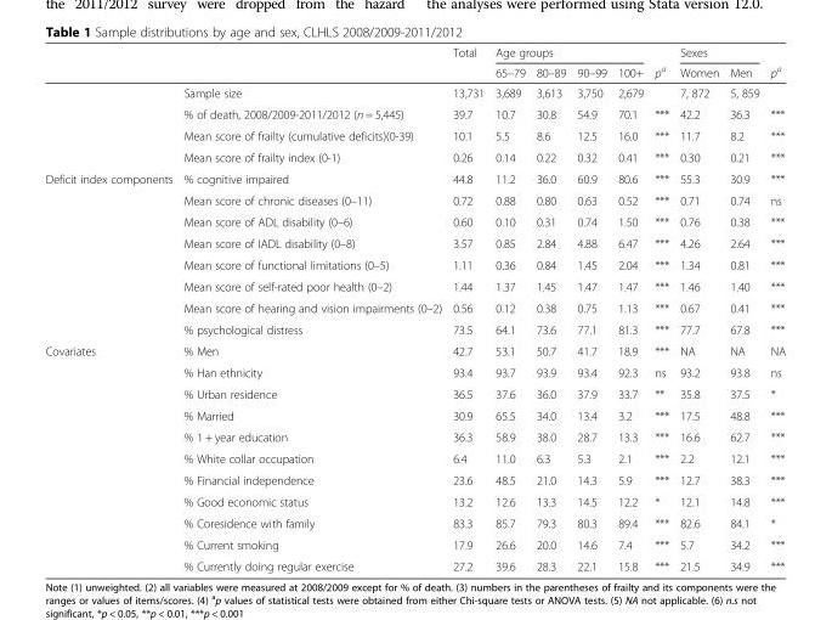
<table><thead><tr><td rowspan="2"></td><td rowspan="2"></td><td rowspan="2">Total</td><td colspan="4">Age groups</td><td rowspan="2">p<sup>a</sup></td><td colspan="2">Sexes</td><td rowspan="2">p<sup>a</sup></td></tr><tr><td>65–79</td><td>80–89</td><td>90–99</td><td>100+</td><td>Women</td><td>Men</td></tr></thead><tbody><tr><td></td><td>Sample size</td><td>13,731</td><td>3,689</td><td>3,613</td><td>3,750</td><td>2,679</td><td></td><td>7, 872</td><td>5, 859</td><td></td></tr><tr><td></td><td>% of death, 2008/2009-2011/2012 (n = 5,445)</td><td>39.7</td><td>10.7</td><td>30.8</td><td>54.9</td><td>70.1</td><td>***</td><td>42.2</td><td>36.3</td><td>***</td></tr><tr><td></td><td>Mean score of frailty (cumulative deficits)(0-39)</td><td>10.1</td><td>5.5</td><td>8.6</td><td>12.5</td><td>16.0</td><td>***</td><td>11.7</td><td>8.2</td><td>***</td></tr><tr><td></td><td>Mean score of frailty index (0-1)</td><td>0.26</td><td>0.14</td><td>0.22</td><td>0.32</td><td>0.41</td><td>***</td><td>0.30</td><td>0.21</td><td>***</td></tr><tr><td rowspan="8">Deficit index components</td><td>% cognitive impaired</td><td>44.8</td><td>11.2</td><td>36.0</td><td>60.9</td><td>80.6</td><td>***</td><td>55.3</td><td>30.9</td><td>***</td></tr><tr><td>Mean score of chronic diseases (0–11)</td><td>0.72</td><td>0.88</td><td>0.80</td><td>0.63</td><td>0.52</td><td>***</td><td>0.71</td><td>0.74</td><td>ns</td></tr><tr><td>Mean score of ADL disability (0–6)</td><td>0.60</td><td>0.10</td><td>0.31</td><td>0.74</td><td>1.50</td><td>***</td><td>0.76</td><td>0.38</td><td>***</td></tr><tr><td>Mean score of IADL disability (0–8)</td><td>3.57</td><td>0.85</td><td>2.84</td><td>4.88</td><td>6.47</td><td>***</td><td>4.26</td><td>2.64</td><td>***</td></tr><tr><td>Mean score of functional limitations (0–5)</td><td>1.11</td><td>0.36</td><td>0.84</td><td>1.45</td><td>2.04</td><td>***</td><td>1.34</td><td>0.81</td><td>***</td></tr><tr><td>Mean score of self-rated poor health (0–2)</td><td>1.44</td><td>1.37</td><td>1.45</td><td>1.47</td><td>1.47</td><td>***</td><td>1.46</td><td>1.40</td><td>***</td></tr><tr><td>Mean score of hearing and vision impairments (0–2)</td><td>0.56</td><td>0.12</td><td>0.38</td><td>0.75</td><td>1.13</td><td>***</td><td>0.67</td><td>0.41</td><td>***</td></tr><tr><td>% psychological distress</td><td>73.5</td><td>64.1</td><td>73.6</td><td>77.1</td><td>81.3</td><td>***</td><td>77.7</td><td>67.8</td><td>***</td></tr><tr><td rowspan="11">Covariates</td><td>% Men</td><td>42.7</td><td>53.1</td><td>50.7</td><td>41.7</td><td>18.9</td><td>***</td><td>NA</td><td>NA</td><td>NA</td></tr><tr><td>% Han ethnicity</td><td>93.4</td><td>93.7</td><td>93.9</td><td>93.4</td><td>92.3</td><td>ns</td><td>93.2</td><td>93.8</td><td>ns</td></tr><tr><td>% Urban residence</td><td>36.5</td><td>37.6</td><td>36.0</td><td>37.9</td><td>33.7</td><td>**</td><td>35.8</td><td>37.5</td><td>*</td></tr><tr><td>% Married</td><td>30.9</td><td>65.5</td><td>34.0</td><td>13.4</td><td>3.2</td><td>***</td><td>17.5</td><td>48.8</td><td>***</td></tr><tr><td>% 1 + year education</td><td>36.3</td><td>58.9</td><td>38.0</td><td>28.7</td><td>13.3</td><td>***</td><td>16.6</td><td>62.7</td><td>***</td></tr><tr><td>% White collar occupation</td><td>6.4</td><td>11.0</td><td>6.3</td><td>5.3</td><td>2.1</td><td>***</td><td>2.2</td><td>12.1</td><td>***</td></tr><tr><td>% Financial independence</td><td>23.6</td><td>48.5</td><td>21.0</td><td>14.3</td><td>5.9</td><td>***</td><td>12.7</td><td>38.3</td><td>***</td></tr><tr><td>% Good economic status</td><td>13.2</td><td>12.6</td><td>13.3</td><td>14.5</td><td>12.2</td><td>*</td><td>12.1</td><td>14.8</td><td>***</td></tr><tr><td>% Coresidence with family</td><td>83.3</td><td>85.7</td><td>79.3</td><td>80.3</td><td>89.4</td><td>***</td><td>82.6</td><td>84.1</td><td>*</td></tr><tr><td>% Current smoking</td><td>17.9</td><td>26.6</td><td>20.0</td><td>14.6</td><td>7.4</td><td>***</td><td>5.7</td><td>34.2</td><td>***</td></tr><tr><td>% Currently doing regular exercise</td><td>27.2</td><td>39.6</td><td>28.3</td><td>22.1</td><td>15.8</td><td>***</td><td>21.5</td><td>34.9</td><td>***</td></tr></tbody></table>